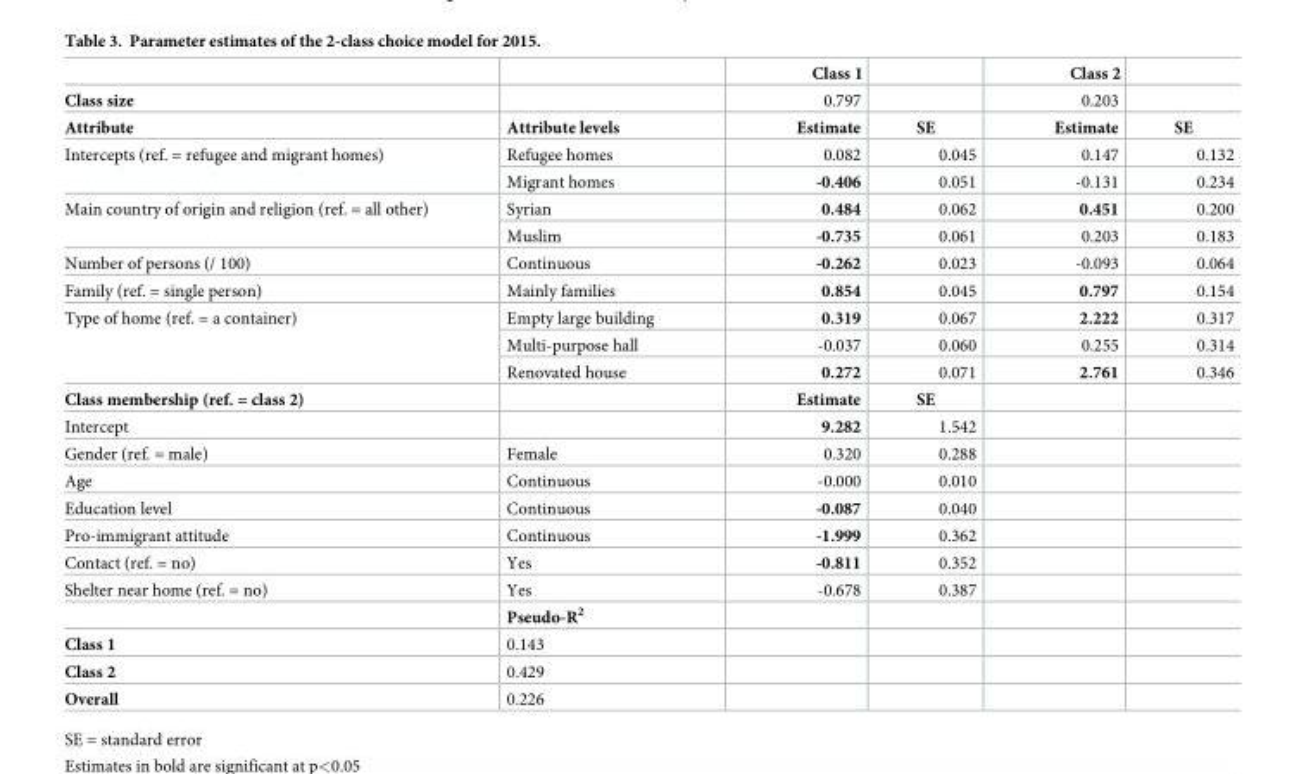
<table><thead><tr><td></td><td></td><td>Class 1</td><td></td><td>Class 2</td><td></td></tr></thead><tbody><tr><td>Class size</td><td></td><td>0.797</td><td></td><td>0.203</td><td></td></tr><tr><td>Attribute</td><td>Attribute levels</td><td>Estimate</td><td>SE</td><td>Estimate</td><td>SE</td></tr><tr><td rowspan="2">Intercepts (ref. = refugee and migrant homes)</td><td>Refugee homes</td><td>0.082</td><td>0.045</td><td>0.147</td><td>0.132</td></tr><tr><td>Migrant homes</td><td>-0.406</td><td>0.051</td><td>-0.131</td><td>0.234</td></tr><tr><td rowspan="2">Main country of origin and religion (ref. = all other)</td><td>Syrian</td><td>0.484</td><td>0.062</td><td>0.451</td><td>0.200</td></tr><tr><td>Muslim</td><td>-0.735</td><td>0.061</td><td>0.203</td><td>0.183</td></tr><tr><td>Number of persons (/ 100)</td><td>Continuous</td><td>-0.262</td><td>0.023</td><td>-0.093</td><td>0.064</td></tr><tr><td>Family (ref. = single person)</td><td>Mainly families</td><td>0.854</td><td>0.045</td><td>0.797</td><td>0.154</td></tr><tr><td rowspan="3">Type of home (ref. = a container)</td><td>Empty large building</td><td>0.319</td><td>0.067</td><td>2.222</td><td>0.317</td></tr><tr><td>Multi-purpose hall</td><td>-0.037</td><td>0.060</td><td>0.255</td><td>0.314</td></tr><tr><td>Renovated house</td><td>0.272</td><td>0.071</td><td>2.761</td><td>0.346</td></tr><tr><td>Class membership (ref. = class 2)</td><td></td><td>Estimate</td><td>SE</td><td></td><td></td></tr><tr><td>Intercept</td><td></td><td>9.282</td><td>1.542</td><td></td><td></td></tr><tr><td>Gender (ref. = male)</td><td>Female</td><td>0.320</td><td>0.288</td><td></td><td></td></tr><tr><td>Age</td><td>Continuous</td><td>-0.000</td><td>0.010</td><td></td><td></td></tr><tr><td>Education level</td><td>Continuous</td><td>-0.087</td><td>0.040</td><td></td><td></td></tr><tr><td>Pro-immigrant attitude</td><td>Continuous</td><td>-1.999</td><td>0.362</td><td></td><td></td></tr><tr><td>Contact (ref. = no)</td><td>Yes</td><td>-0.811</td><td>0.352</td><td></td><td></td></tr><tr><td rowspan="2">Shelter near home (ref. = no)</td><td>Yes</td><td>-0.678</td><td>0.387</td><td></td><td></td></tr><tr><td>Pseudo-R<sup>2</sup></td><td></td><td></td><td></td><td></td></tr><tr><td>Class 1</td><td>0.143</td><td></td><td></td><td></td><td></td></tr><tr><td>Class 2</td><td>0.429</td><td></td><td></td><td></td><td></td></tr><tr><td>Overall</td><td>0.226</td><td></td><td></td><td></td><td></td></tr></tbody></table>